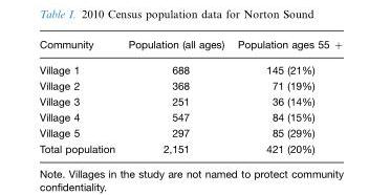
<table><thead><tr><td>Community</td><td>Population (all ages)</td><td>Population ages 55</td></tr></thead><tbody><tr><td>Village 1</td><td>688</td><td>145 (21%)</td></tr><tr><td>Village 2</td><td>368</td><td>71 (19%)</td></tr><tr><td>Village 3</td><td>251</td><td>36 (14%)</td></tr><tr><td>Village 4</td><td>547</td><td>84 (15%)</td></tr><tr><td>Village 5</td><td>297</td><td>85 (29%)</td></tr><tr><td>Total population</td><td>2,151</td><td>421 (20%)</td></tr></tbody></table>